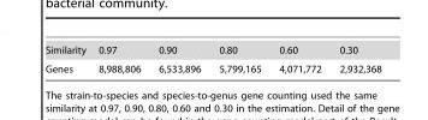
<table><tbody><tr><td>Similarity</td><td>0.97</td><td>0.90</td><td>0.80</td><td>0.60</td><td>0.30</td></tr><tr><td>Genes</td><td>8,988,806</td><td>6,533,896</td><td>5,799,165</td><td>4,071,772</td><td>2,932,368</td></tr></tbody></table>